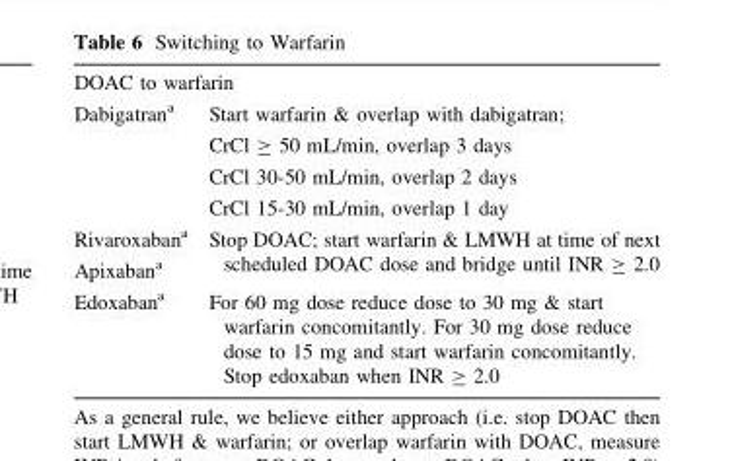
<table><tbody><tr><td colspan="2">DOAC to warfarin</td></tr><tr><td>Dabigatran<sup>a</sup></td><td>Start warfarin &amp; overlap with dabigatran; CrCl ≥ 50 mL/min, overlap 3 days CrCl 30-50 mL/min, overlap 2 days CrCl 15-30 mL/min, overlap 1 day</td></tr><tr><td>Rivaroxaban<sup>a</sup> Apixaban<sup>a</sup></td><td>Stop DOAC; start warfarin &amp; LMWH at time of next scheduled DOAC dose and bridge until INR ≥ 2.0</td></tr><tr><td>Edoxaban<sup>a</sup></td><td>For 60 mg dose reduce dose to 30 mg &amp; start warfarin concomitantly. For 30 mg dose reduce dose to 15 mg and start warfarin concomitantly. Stop edoxaban when INR ≥ 2.0</td></tr></tbody></table>